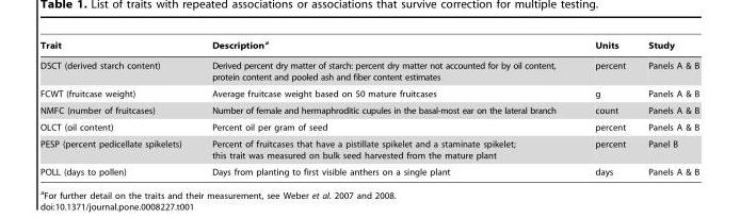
<table><thead><tr><td>Trait</td><td>Description<sup>a</sup></td><td>Units</td><td>Study</td></tr></thead><tbody><tr><td>DSCT (derived starch content)</td><td>Derived percent dry matter of starch: percent dry matter not accounted for by oil content, protein content and pooled ash and fiber content estimates</td><td>percent</td><td>Panels A &amp; B</td></tr><tr><td>FCWT (fruitcase weight)</td><td>Average fruitcase weight based on 50 mature fruitcases</td><td>g</td><td>Panels A &amp; B</td></tr><tr><td>NMFC (number of fruitcases)</td><td>Number of female and hermaphroditic cupules in the basal-most ear on the lateral branch</td><td>count</td><td>Panels A &amp; B</td></tr><tr><td>OLCT (oil content)</td><td>Percent oil per gram of seed</td><td>percent</td><td>Panels A &amp; B</td></tr><tr><td>PESP (percent pedicellate spikelets)</td><td>Percent of fruitcases that have a pistillate spikelet and a staminate spikelet; this trait was measured on bulk seed harvested from the mature plant</td><td>percent</td><td>Panel B</td></tr><tr><td>POLL (days to pollen)</td><td>Days from planting to first visible anthers on a single plant</td><td>days</td><td>Panels A &amp; B</td></tr></tbody></table>